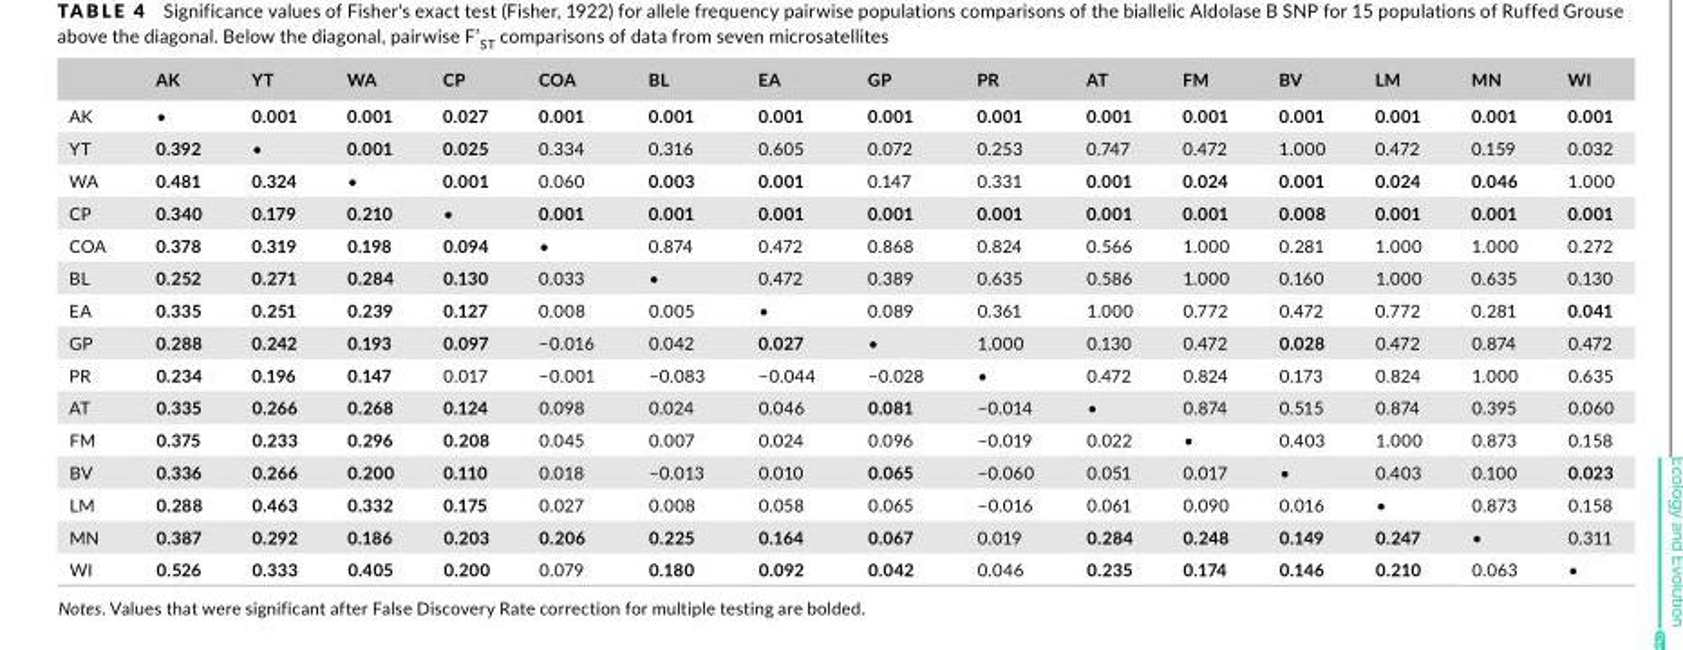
<table><thead><tr><td></td><td>AK</td><td>YT</td><td>WA</td><td>CP</td><td>COA</td><td>BL</td><td>EA</td><td>GP</td><td>PR</td><td>AT</td><td>FM</td><td>BV</td><td>LM</td><td>MN</td><td>WI</td></tr></thead><tbody><tr><td>AK</td><td>•</td><td>0.001</td><td>0.001</td><td>0.027</td><td>0.001</td><td>0.001</td><td>0.001</td><td>0.001</td><td>0.001</td><td>0.001</td><td>0.001</td><td>0.001</td><td>0.001</td><td>0.001</td><td>0.001</td></tr><tr><td>YT</td><td>0.392</td><td>•</td><td>0.001</td><td>0.025</td><td>0.334</td><td>0.316</td><td>0.605</td><td>0.072</td><td>0.253</td><td>0.747</td><td>0.472</td><td>1.000</td><td>0.472</td><td>0.159</td><td>0.032</td></tr><tr><td>WA</td><td>0.481</td><td>0.324</td><td>•</td><td>0.001</td><td>0.060</td><td>0.003</td><td>0.001</td><td>0.147</td><td>0.331</td><td>0.001</td><td>0.024</td><td>0.001</td><td>0.024</td><td>0.046</td><td>1.000</td></tr><tr><td>CP</td><td>0.340</td><td>0.179</td><td>0.210</td><td>•</td><td>0.001</td><td>0.001</td><td>0.001</td><td>0.001</td><td>0.001</td><td>0.001</td><td>0.001</td><td>0.008</td><td>0.001</td><td>0.001</td><td>0.001</td></tr><tr><td>COA</td><td>0.378</td><td>0.319</td><td>0.198</td><td>0.094</td><td>•</td><td>0.874</td><td>0.472</td><td>0.868</td><td>0.824</td><td>0.566</td><td>1.000</td><td>0.281</td><td>1.000</td><td>1.000</td><td>0.272</td></tr><tr><td>BL</td><td>0.252</td><td>0.271</td><td>0.284</td><td>0.130</td><td>0.033</td><td>•</td><td>0.472</td><td>0.389</td><td>0.635</td><td>0.586</td><td>1.000</td><td>0.160</td><td>1.000</td><td>0.635</td><td>0.130</td></tr><tr><td>EA</td><td>0.335</td><td>0.251</td><td>0.239</td><td>0.127</td><td>0.008</td><td>0.005</td><td>•</td><td>0.089</td><td>0.361</td><td>1.000</td><td>0.772</td><td>0.472</td><td>0.772</td><td>0.281</td><td>0.041</td></tr><tr><td>GP</td><td>0.288</td><td>0.242</td><td>0.193</td><td>0.097</td><td>−0.016</td><td>0.042</td><td>0.027</td><td>•</td><td>1.000</td><td>0.130</td><td>0.472</td><td>0.028</td><td>0.472</td><td>0.874</td><td>0.472</td></tr><tr><td>PR</td><td>0.234</td><td>0.196</td><td>0.147</td><td>0.017</td><td>−0.001</td><td>−0.083</td><td>−0.044</td><td>−0.028</td><td>•</td><td>0.472</td><td>0.824</td><td>0.173</td><td>0.824</td><td>1.000</td><td>0.635</td></tr><tr><td>AT</td><td>0.335</td><td>0.266</td><td>0.268</td><td>0.124</td><td>0.098</td><td>0.024</td><td>0.046</td><td>0.081</td><td>−0.014</td><td>•</td><td>0.874</td><td>0.515</td><td>0.874</td><td>0.395</td><td>0.060</td></tr><tr><td>FM</td><td>0.375</td><td>0.233</td><td>0.296</td><td>0.208</td><td>0.045</td><td>0.007</td><td>0.024</td><td>0.096</td><td>−0.019</td><td>0.022</td><td>•</td><td>0.403</td><td>1.000</td><td>0.873</td><td>0.158</td></tr><tr><td>BV</td><td>0.336</td><td>0.266</td><td>0.200</td><td>0.110</td><td>0.018</td><td>−0.013</td><td>0.010</td><td>0.065</td><td>−0.060</td><td>0.051</td><td>0.017</td><td>•</td><td>0.403</td><td>0.100</td><td>0.023</td></tr><tr><td>LM</td><td>0.288</td><td>0.463</td><td>0.332</td><td>0.175</td><td>0.027</td><td>0.008</td><td>0.058</td><td>0.065</td><td>−0.016</td><td>0.061</td><td>0.090</td><td>0.016</td><td>•</td><td>0.873</td><td>0.158</td></tr><tr><td>MN</td><td>0.387</td><td>0.292</td><td>0.186</td><td>0.203</td><td>0.206</td><td>0.225</td><td>0.164</td><td>0.067</td><td>0.019</td><td>0.284</td><td>0.248</td><td>0.149</td><td>0.247</td><td>•</td><td>0.311</td></tr><tr><td>WI</td><td>0.526</td><td>0.333</td><td>0.405</td><td>0.200</td><td>0.079</td><td>0.180</td><td>0.092</td><td>0.042</td><td>0.046</td><td>0.235</td><td>0.174</td><td>0.146</td><td>0.210</td><td>0.063</td><td>•</td></tr></tbody></table>